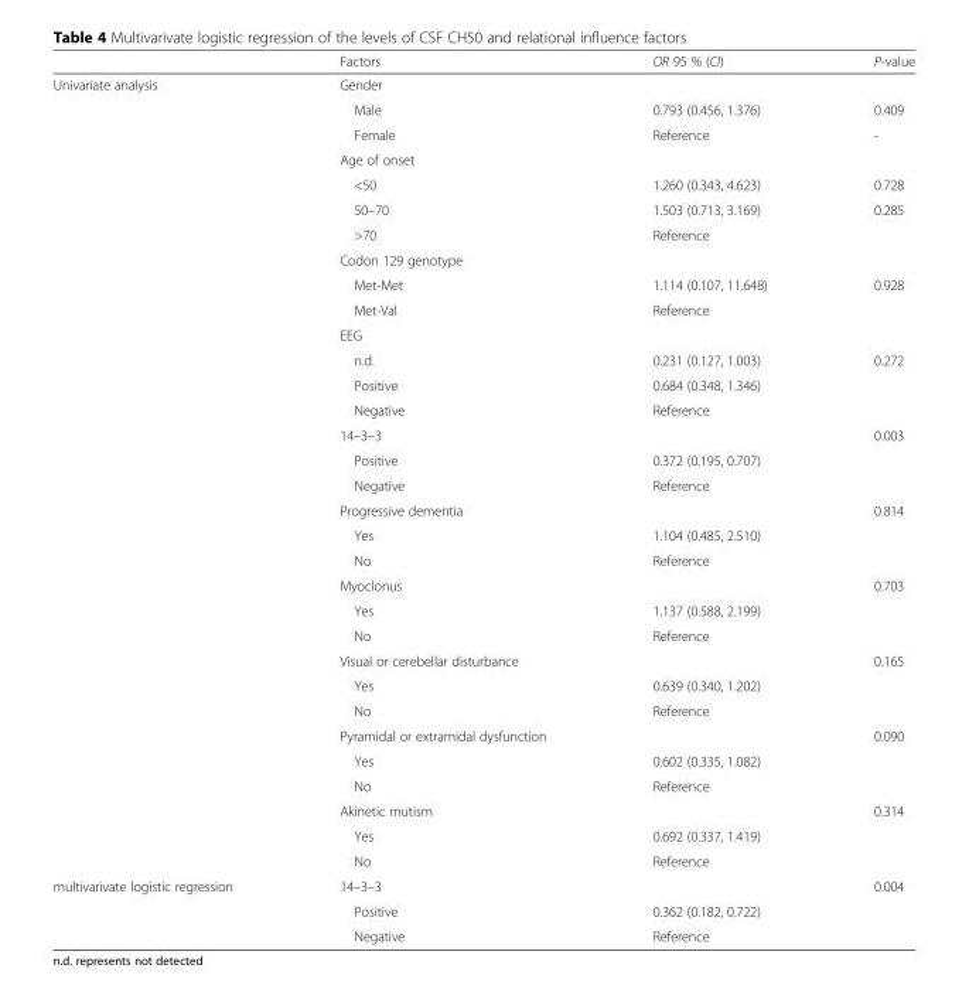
<table><thead><tr><td></td><td>Factors</td><td>OR 95 % (CI)</td><td>P-value</td></tr></thead><tbody><tr><td rowspan="32">Univariate analysis</td><td>Gender</td><td></td><td></td></tr><tr><td>Male</td><td>0.793 (0.456, 1.376)</td><td>0.409</td></tr><tr><td>Female</td><td>Reference</td><td>-</td></tr><tr><td>Age of onset</td><td></td><td></td></tr><tr><td>&lt;50</td><td>1.260 (0.343, 4.623)</td><td>0.728</td></tr><tr><td>50–70</td><td>1.503 (0.713, 3.169)</td><td>0.285</td></tr><tr><td>&gt;70</td><td>Reference</td><td></td></tr><tr><td>Codon 129 genotype</td><td></td><td></td></tr><tr><td>Met-Met</td><td>1.114 (0.107, 11.648)</td><td>0.928</td></tr><tr><td>Met-Val</td><td>Reference</td><td></td></tr><tr><td>EEG</td><td></td><td></td></tr><tr><td>n.d.</td><td>0.231 (0.127, 1.003)</td><td>0.272</td></tr><tr><td>Positive</td><td>0.684 (0.348, 1.346)</td><td></td></tr><tr><td>Negative</td><td>Reference</td><td></td></tr><tr><td>14–3–3</td><td></td><td>0.003</td></tr><tr><td>Positive</td><td>0.372 (0.195, 0.707)</td><td></td></tr><tr><td>Negative</td><td>Reference</td><td></td></tr><tr><td>Progressive dementia</td><td></td><td>0.814</td></tr><tr><td>Yes</td><td>1.104 (0.485, 2.510)</td><td></td></tr><tr><td>No</td><td>Reference</td><td></td></tr><tr><td>Myoclonus</td><td></td><td>0.703</td></tr><tr><td>Yes</td><td>1.137 (0.588, 2.199)</td><td></td></tr><tr><td>No</td><td>Reference</td><td></td></tr><tr><td>Visual or cerebellar disturbance</td><td></td><td>0.165</td></tr><tr><td>Yes</td><td>0.639 (0.340, 1.202)</td><td></td></tr><tr><td>No</td><td>Reference</td><td></td></tr><tr><td>Pyramidal or extramidal dysfunction</td><td></td><td>0.090</td></tr><tr><td>Yes</td><td>0.602 (0.335, 1.082)</td><td></td></tr><tr><td>No</td><td>Reference</td><td></td></tr><tr><td>Akinetic mutism</td><td></td><td>0.314</td></tr><tr><td>Yes</td><td>0.692 (0.337, 1.419)</td><td></td></tr><tr><td>No</td><td>Reference</td><td></td></tr><tr><td rowspan="3">multivarivate logistic regression</td><td>14–3–3</td><td></td><td>0.004</td></tr><tr><td>Positive</td><td>0.362 (0.182, 0.722)</td><td></td></tr><tr><td>Negative</td><td>Reference</td><td></td></tr></tbody></table>